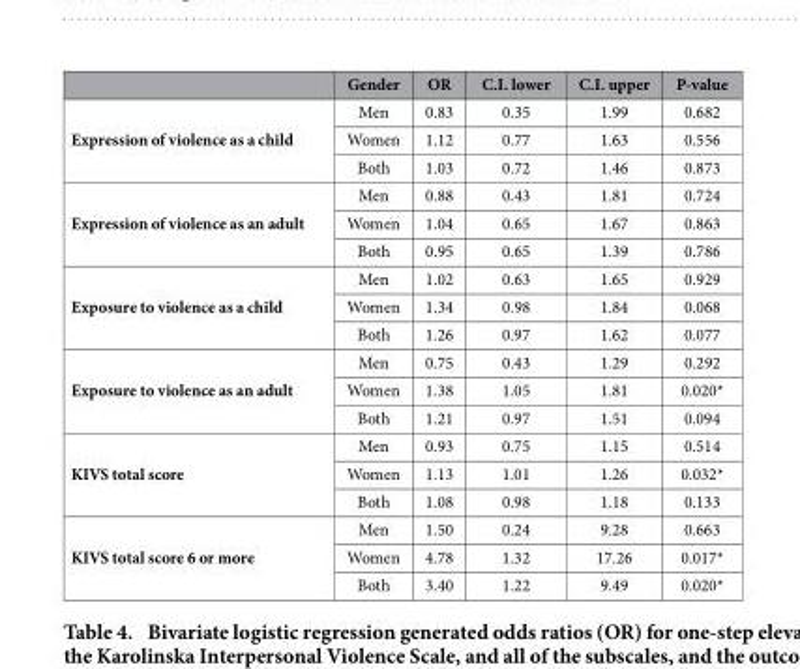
<table><thead><tr><td></td><td>Gender</td><td>OR</td><td>C.I. lower</td><td>C.I. upper</td><td>P-value</td></tr></thead><tbody><tr><td rowspan="3">Expression of violence as a child</td><td>Men</td><td>0.83</td><td>0.35</td><td>1.99</td><td>0.682</td></tr><tr><td>Women</td><td>1.12</td><td>0.77</td><td>1.63</td><td>0.556</td></tr><tr><td>Both</td><td>1.03</td><td>0.72</td><td>1.46</td><td>0.873</td></tr><tr><td rowspan="3">Expression of violence as an adult</td><td>Men</td><td>0.88</td><td>0.43</td><td>1.81</td><td>0.724</td></tr><tr><td>Women</td><td>1.04</td><td>0.65</td><td>1.67</td><td>0.863</td></tr><tr><td>Both</td><td>0.95</td><td>0.65</td><td>1.39</td><td>0.786</td></tr><tr><td rowspan="3">Exposure to violence as a child</td><td>Men</td><td>1.02</td><td>0.63</td><td>1.65</td><td>0.929</td></tr><tr><td>Women</td><td>1.34</td><td>0.98</td><td>1.84</td><td>0.068</td></tr><tr><td>Both</td><td>1.26</td><td>0.97</td><td>1.62</td><td>0.077</td></tr><tr><td rowspan="3">Exposure to violence as an adult</td><td>Men</td><td>0.75</td><td>0.43</td><td>1.29</td><td>0.292</td></tr><tr><td>Women</td><td>1.38</td><td>1.05</td><td>1.81</td><td>0.020*</td></tr><tr><td>Both</td><td>1.21</td><td>0.97</td><td>1.51</td><td>0.094</td></tr><tr><td rowspan="3">KIVS total score</td><td>Men</td><td>0.93</td><td>0.75</td><td>1.15</td><td>0.514</td></tr><tr><td>Women</td><td>1.13</td><td>1.01</td><td>1.26</td><td>0.032*</td></tr><tr><td>Both</td><td>1.08</td><td>0.98</td><td>1.18</td><td>0.133</td></tr><tr><td rowspan="3">KIVS total score 6 or more</td><td>Men</td><td>1.50</td><td>0.24</td><td>9.28</td><td>0.663</td></tr><tr><td>Women</td><td>4.78</td><td>1.32</td><td>17.26</td><td>0.017*</td></tr><tr><td>Both</td><td>3.40</td><td>1.22</td><td>9.49</td><td>0.020*</td></tr></tbody></table>